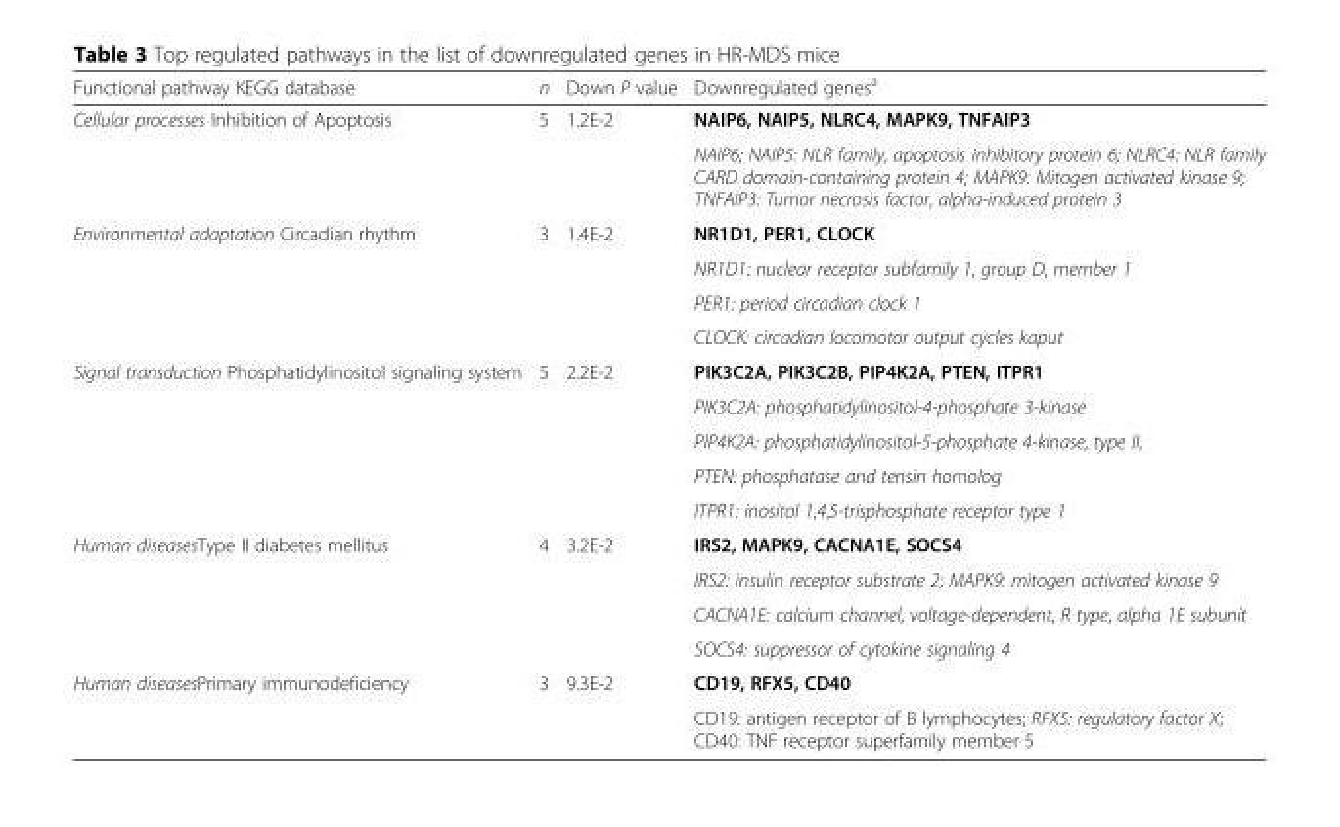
<table><thead><tr><td>Functional pathway KEGG database</td><td>n</td><td>Down P value</td><td>Downregulated genes<sup>a</sup></td></tr></thead><tbody><tr><td rowspan="2">Cellular processes Inhibition of Apoptosis</td><td rowspan="2">5</td><td rowspan="2">1.2E-2</td><td>NAIP6, NAIP5, NLRC4, MAPK9, TNFAIP3</td></tr><tr><td>NAIP6; NAIP5: NLR family, apoptosis inhibitory protein 6; NLRC4: NLR family CARD domain-containing protein 4; MAPK9: Mitogen activated kinase 9; TNFAIP3: Tumor necrosis factor, alpha-induced protein 3</td></tr><tr><td rowspan="4">Environmental adaptation Circadian rhythm</td><td rowspan="4">3</td><td rowspan="4">1.4E-2</td><td>NR1D1, PER1, CLOCK</td></tr><tr><td>NR1D1: nuclear receptor subfamily 1, group D, member 1</td></tr><tr><td>PER1: period circadian clock 1</td></tr><tr><td>CLOCK: circadian locomotor output cycles kaput</td></tr><tr><td rowspan="5">Signal transduction Phosphatidylinositol signaling system</td><td rowspan="5">5</td><td rowspan="5">2.2E-2</td><td>PIK3C2A, PIK3C2B, PIP4K2A, PTEN, ITPR1</td></tr><tr><td>PIK3C2A: phosphatidylinositol-4-phosphate 3-kinase</td></tr><tr><td>PIP4K2A: phosphatidylinositol-5-phosphate 4-kinase, type II,</td></tr><tr><td>PTEN: phosphatase and tensin homolog</td></tr><tr><td>ITPR1: inositol 1,4,5-trisphosphate receptor type 1</td></tr><tr><td rowspan="4">Human diseasesType II diabetes mellitus</td><td rowspan="4">4</td><td rowspan="4">3.2E-2</td><td>IRS2, MAPK9, CACNA1E, SOCS4</td></tr><tr><td>IRS2: insulin receptor substrate 2; MAPK9: mitogen activated kinase 9</td></tr><tr><td>CACNA1E: calcium channel, voltage-dependent, R type, alpha 1E subunit</td></tr><tr><td>SOCS4: suppressor of cytokine signaling 4</td></tr><tr><td rowspan="2">Human diseasesPrimary immunodeficiency</td><td rowspan="2">3</td><td rowspan="2">9.3E-2</td><td>CD19, RFX5, CD40</td></tr><tr><td>CD19: antigen receptor of B lymphocytes; RFX5: regulatory factor X; CD40: TNF receptor superfamily member 5</td></tr></tbody></table>